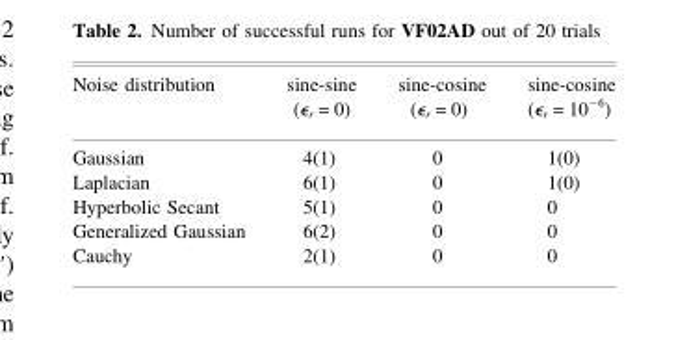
<table><thead><tr><td>Noise distribution</td><td>sine-sine (ϵ<sub>r</sub> = 0)</td><td>sine-cosine (ϵ<sub>r</sub> = 0)</td><td>sine-cosine (ϵ<sub>r</sub> = 10<sup>−6</sup>)</td></tr></thead><tbody><tr><td>Gaussian</td><td>4(1)</td><td>0</td><td>1(0)</td></tr><tr><td>Laplacian</td><td>6(1)</td><td>0</td><td>1(0)</td></tr><tr><td>Hyperbolic Secant</td><td>5(1)</td><td>0</td><td>0</td></tr><tr><td>Generalized Gaussian</td><td>6(2)</td><td>0</td><td>0</td></tr><tr><td>Cauchy</td><td>2(1)</td><td>0</td><td>0</td></tr></tbody></table>